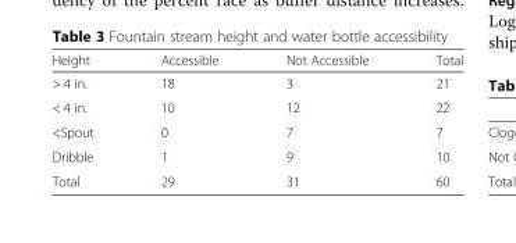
<table><thead><tr><td>Height</td><td>Accessible</td><td>Not Accessible</td><td>Total</td></tr></thead><tbody><tr><td>&gt; 4 in.</td><td>18</td><td>3</td><td>21</td></tr><tr><td>&lt; 4 in.</td><td>10</td><td>12</td><td>22</td></tr><tr><td>&lt;Spout</td><td>0</td><td>7</td><td>7</td></tr><tr><td>Dribble</td><td>1</td><td>9</td><td>10</td></tr><tr><td>Total</td><td>29</td><td>31</td><td>60</td></tr></tbody></table>